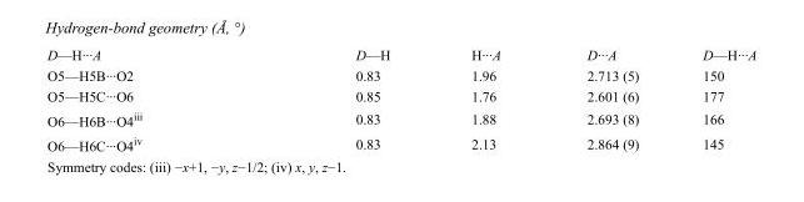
<table><tbody><tr><td>D—H···A</td><td>D—H</td><td>H···A</td><td>D···A</td><td>D—H···A</td></tr><tr><td>O5—H5B···O2</td><td>0.83</td><td>1.96</td><td>2.713 (5)</td><td>150</td></tr><tr><td>O5—H5C···O6</td><td>0.85</td><td>1.76</td><td>2.601 (6)</td><td>177</td></tr><tr><td>O6—H6B···O4<sup>iii</sup></td><td>0.83</td><td>1.88</td><td>2.693 (8)</td><td>166</td></tr><tr><td>O6—H6C···O4<sup>iv</sup></td><td>0.83</td><td>2.13</td><td>2.864 (9)</td><td>145</td></tr></tbody></table>